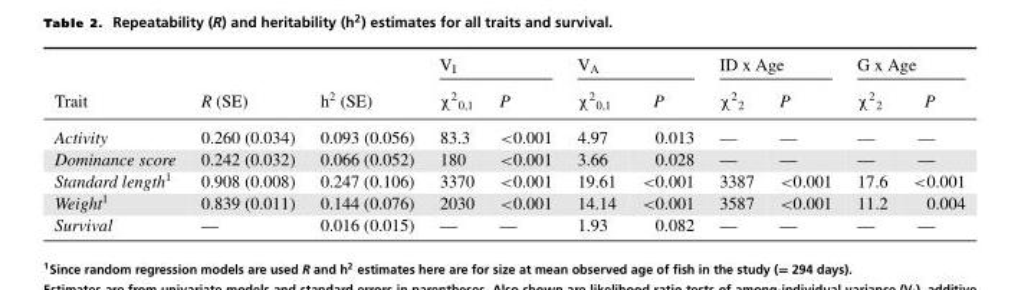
<table><thead><tr><td rowspan="2">Trait</td><td rowspan="2">R (SE)</td><td rowspan="2">h<sup>2</sup> (SE)</td><td colspan="2">V<sub>I</sub></td><td colspan="2">V<sub>A</sub></td><td colspan="2">ID x Age</td><td colspan="2">G x Age</td></tr><tr><td>χ<sup>2</sup><sub>0,1</sub></td><td>P</td><td>χ<sup>2</sup><sub>0,1</sub></td><td>P</td><td>χ<sup>2</sup><sub>2</sub></td><td>P</td><td>χ<sup>2</sup><sub>2</sub></td><td>P</td></tr></thead><tbody><tr><td>Activity</td><td>0.260 (0.034)</td><td>0.093 (0.056)</td><td>83.3</td><td>&lt;0.001</td><td>4.97</td><td>0.013</td><td>—</td><td>—</td><td>—</td><td>—</td></tr><tr><td>Dominance score</td><td>0.242 (0.032)</td><td>0.066 (0.052)</td><td>180</td><td>&lt;0.001</td><td>3.66</td><td>0.028</td><td>—</td><td>—</td><td>—</td><td>—</td></tr><tr><td>Standard length1</td><td>0.908 (0.008)</td><td>0.247 (0.106)</td><td>3370</td><td>&lt;0.001</td><td>19.61</td><td>&lt;0.001</td><td>3387</td><td>&lt;0.001</td><td>17.6</td><td>&lt;0.001</td></tr><tr><td>Weight1</td><td>0.839 (0.011)</td><td>0.144 (0.076)</td><td>2030</td><td>&lt;0.001</td><td>14.14</td><td>&lt;0.001</td><td>3587</td><td>&lt;0.001</td><td>11.2</td><td>0.004</td></tr><tr><td>Survival</td><td>—</td><td>0.016 (0.015)</td><td>—</td><td>—</td><td>1.93</td><td>0.082</td><td>—</td><td>—</td><td>—</td><td>—</td></tr></tbody></table>